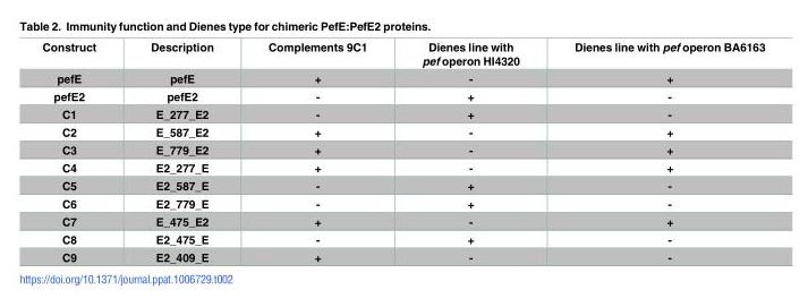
<table><thead><tr><td>Construct</td><td>Description</td><td>Complements 9C1</td><td>Dienes line with pef operon HI4320</td><td>Dienes line with pef operon BA6163</td></tr></thead><tbody><tr><td>pefE</td><td>pefE</td><td>+</td><td>-</td><td>+</td></tr><tr><td>pefE2</td><td>pefE2</td><td>-</td><td>+</td><td>-</td></tr><tr><td>C1</td><td>E_277_E2</td><td>-</td><td>+</td><td>-</td></tr><tr><td>C2</td><td>E_587_E2</td><td>+</td><td>-</td><td>+</td></tr><tr><td>C3</td><td>E_779_E2</td><td>+</td><td>-</td><td>+</td></tr><tr><td>C4</td><td>E2_277_E</td><td>+</td><td>-</td><td>+</td></tr><tr><td>C5</td><td>E2_587_E</td><td>-</td><td>+</td><td>-</td></tr><tr><td>C6</td><td>E2_779_E</td><td>-</td><td>+</td><td>-</td></tr><tr><td>C7</td><td>E_475_E2</td><td>+</td><td>-</td><td>+</td></tr><tr><td>C8</td><td>E2_475_E</td><td>-</td><td>+</td><td>-</td></tr><tr><td>C9</td><td>E2_409_E</td><td>+</td><td>-</td><td>-</td></tr></tbody></table>